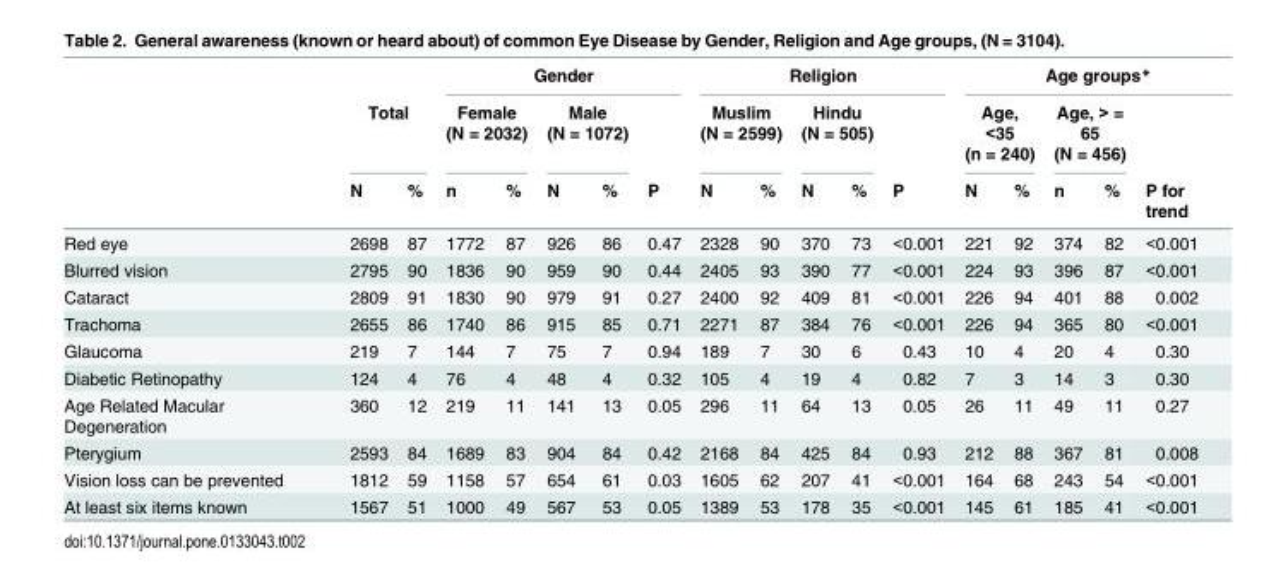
<table><thead><tr><td rowspan="3"></td><td></td><td></td><td colspan="5">Gender</td><td colspan="5">Religion</td><td colspan="5">Age groups*</td></tr><tr><td colspan="2">Total</td><td colspan="2">Female (N = 2032)</td><td colspan="2">Male (N = 1072)</td><td rowspan="2">P</td><td colspan="2">Muslim (N = 2599)</td><td colspan="2">Hindu (N = 505)</td><td rowspan="2">P</td><td colspan="2">Age, &lt;35 (n = 240)</td><td colspan="2">Age, &gt; = 65 (N = 456)</td><td rowspan="2">P for trend</td></tr><tr><td>N</td><td>%</td><td>n</td><td>%</td><td>N</td><td>%</td><td>N</td><td>%</td><td>N</td><td>%</td><td>N</td><td>%</td><td>n</td><td>%</td></tr></thead><tbody><tr><td>Red eye</td><td>2698</td><td>87</td><td>1772</td><td>87</td><td>926</td><td>86</td><td>0.47</td><td>2328</td><td>90</td><td>370</td><td>73</td><td>&lt;0.001</td><td>221</td><td>92</td><td>374</td><td>82</td><td>&lt;0.001</td></tr><tr><td>Blurred vision</td><td>2795</td><td>90</td><td>1836</td><td>90</td><td>959</td><td>90</td><td>0.44</td><td>2405</td><td>93</td><td>390</td><td>77</td><td>&lt;0.001</td><td>224</td><td>93</td><td>396</td><td>87</td><td>&lt;0.001</td></tr><tr><td>Cataract</td><td>2809</td><td>91</td><td>1830</td><td>90</td><td>979</td><td>91</td><td>0.27</td><td>2400</td><td>92</td><td>409</td><td>81</td><td>&lt;0.001</td><td>226</td><td>94</td><td>401</td><td>88</td><td>0.002</td></tr><tr><td>Trachoma</td><td>2655</td><td>86</td><td>1740</td><td>86</td><td>915</td><td>85</td><td>0.71</td><td>2271</td><td>87</td><td>384</td><td>76</td><td>&lt;0.001</td><td>226</td><td>94</td><td>365</td><td>80</td><td>&lt;0.001</td></tr><tr><td>Glaucoma</td><td>219</td><td>7</td><td>144</td><td>7</td><td>75</td><td>7</td><td>0.94</td><td>189</td><td>7</td><td>30</td><td>6</td><td>0.43</td><td>10</td><td>4</td><td>20</td><td>4</td><td>0.30</td></tr><tr><td>Diabetic Retinopathy</td><td>124</td><td>4</td><td>76</td><td>4</td><td>48</td><td>4</td><td>0.32</td><td>105</td><td>4</td><td>19</td><td>4</td><td>0.82</td><td>7</td><td>3</td><td>14</td><td>3</td><td>0.30</td></tr><tr><td>Age Related Macular Degeneration</td><td>360</td><td>12</td><td>219</td><td>11</td><td>141</td><td>13</td><td>0.05</td><td>296</td><td>11</td><td>64</td><td>13</td><td>0.05</td><td>26</td><td>11</td><td>49</td><td>11</td><td>0.27</td></tr><tr><td>Pterygium</td><td>2593</td><td>84</td><td>1689</td><td>83</td><td>904</td><td>84</td><td>0.42</td><td>2168</td><td>84</td><td>425</td><td>84</td><td>0.93</td><td>212</td><td>88</td><td>367</td><td>81</td><td>0.008</td></tr><tr><td>Vision loss can be prevented</td><td>1812</td><td>59</td><td>1158</td><td>57</td><td>654</td><td>61</td><td>0.03</td><td>1605</td><td>62</td><td>207</td><td>41</td><td>&lt;0.001</td><td>164</td><td>68</td><td>243</td><td>54</td><td>&lt;0.001</td></tr><tr><td>At least six items known</td><td>1567</td><td>51</td><td>1000</td><td>49</td><td>567</td><td>53</td><td>0.05</td><td>1389</td><td>53</td><td>178</td><td>35</td><td>&lt;0.001</td><td>145</td><td>61</td><td>185</td><td>41</td><td>&lt;0.001</td></tr></tbody></table>